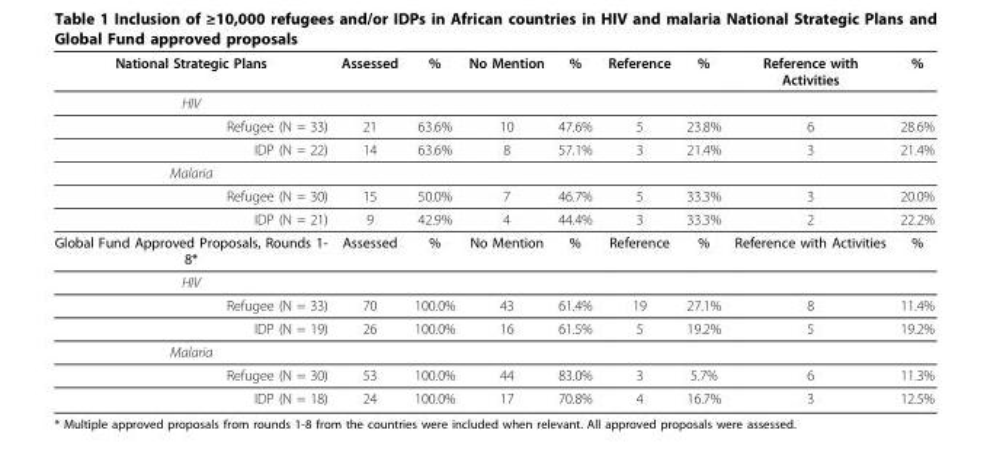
<table><thead><tr><td>National Strategic Plans</td><td>Assessed</td><td>%</td><td>No Mention</td><td>%</td><td>Reference</td><td>%</td><td>Reference with Activities</td><td>%</td></tr></thead><tbody><tr><td colspan="9">HIV</td></tr><tr><td>Refugee (N = 33)</td><td>21</td><td>63.6%</td><td>10</td><td>47.6%</td><td>5</td><td>23.8%</td><td>6</td><td>28.6%</td></tr><tr><td>IDP (N = 22)</td><td>14</td><td>63.6%</td><td>8</td><td>57.1%</td><td>3</td><td>21.4%</td><td>3</td><td>21.4%</td></tr><tr><td colspan="9">Malaria</td></tr><tr><td>Refugee (N = 30)</td><td>15</td><td>50.0%</td><td>7</td><td>46.7%</td><td>5</td><td>33.3%</td><td>3</td><td>20.0%</td></tr><tr><td>IDP (N = 21)</td><td>9</td><td>42.9%</td><td>4</td><td>44.4%</td><td>3</td><td>33.3%</td><td>2</td><td>22.2%</td></tr><tr><td>Global Fund Approved Proposals, Rounds 1- 8*</td><td>Assessed</td><td>%</td><td>No Mention</td><td>%</td><td>Reference</td><td>%</td><td>Reference with Activities</td><td>%</td></tr><tr><td colspan="9">HIV</td></tr><tr><td>Refugee (N = 33)</td><td>70</td><td>100.0%</td><td>43</td><td>61.4%</td><td>19</td><td>27.1%</td><td>8</td><td>11.4%</td></tr><tr><td>IDP (N = 19)</td><td>26</td><td>100.0%</td><td>16</td><td>61.5%</td><td>5</td><td>19.2%</td><td>5</td><td>19.2%</td></tr><tr><td colspan="9">Malaria</td></tr><tr><td>Refugee (N = 30)</td><td>53</td><td>100.0%</td><td>44</td><td>83.0%</td><td>3</td><td>5.7%</td><td>6</td><td>11.3%</td></tr><tr><td>IDP (N = 18)</td><td>24</td><td>100.0%</td><td>17</td><td>70.8%</td><td>4</td><td>16.7%</td><td>3</td><td>12.5%</td></tr></tbody></table>